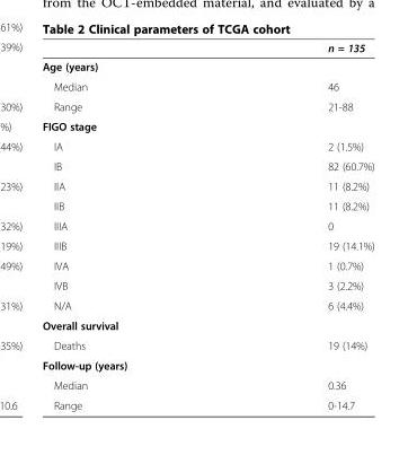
<table><thead><tr><td></td><td>n = 135</td></tr></thead><tbody><tr><td colspan="2">Age (years)</td></tr><tr><td>Median</td><td>46</td></tr><tr><td>Range</td><td>21-88</td></tr><tr><td colspan="2">FIGO stage</td></tr><tr><td>IA</td><td>2 (1.5%)</td></tr><tr><td>IB</td><td>82 (60.7%)</td></tr><tr><td>IIA</td><td>11 (8.2%)</td></tr><tr><td>IIB</td><td>11 (8.2%)</td></tr><tr><td>IIIA</td><td>0</td></tr><tr><td>IIIB</td><td>19 (14.1%)</td></tr><tr><td>IVA</td><td>1 (0.7%)</td></tr><tr><td>IVB</td><td>3 (2.2%)</td></tr><tr><td>N/A</td><td>6 (4.4%)</td></tr><tr><td colspan="2">Overall survival</td></tr><tr><td>Deaths</td><td>19 (14%)</td></tr><tr><td colspan="2">Follow-up (years)</td></tr><tr><td>Median</td><td>0.36</td></tr><tr><td>Range</td><td>0-14.7</td></tr></tbody></table>